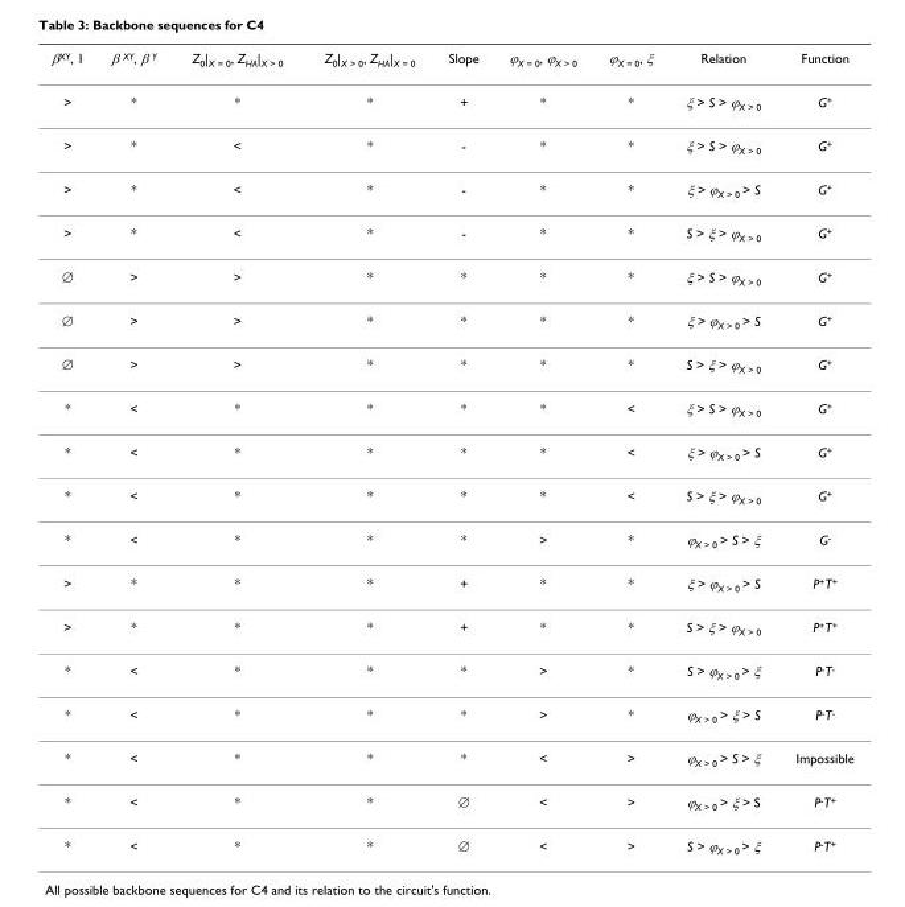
<table><thead><tr><td>β<sup>XY</sup>, 1</td><td>β <sup>XY</sup>, β <sup>Y</sup></td><td>Z<sub>0</sub>|<sub>X = 0</sub>, Z<sub>HA</sub>|<sub>X &gt; 0</sub></td><td>Z<sub>0</sub>|<sub>X &gt; 0</sub>, Z<sub>HA</sub>|<sub>X = 0</sub></td><td>Slope</td><td>ϕ<sub>X = 0</sub>, ϕ<sub>X &gt; 0</sub></td><td>ϕ<sub>X = 0</sub>, ξ</td><td>Relation</td><td>Function</td></tr></thead><tbody><tr><td>&gt;</td><td>*</td><td>*</td><td>*</td><td>+</td><td>*</td><td>*</td><td>ξ &gt; S &gt; ϕ<sub>X &gt; 0</sub></td><td>G<sup>+</sup></td></tr><tr><td>&gt;</td><td>*</td><td>&lt;</td><td>*</td><td>-</td><td>*</td><td>*</td><td>ξ &gt; S &gt; ϕ<sub>X &gt; 0</sub></td><td>G<sup>+</sup></td></tr><tr><td>&gt;</td><td>*</td><td>&lt;</td><td>*</td><td>-</td><td>*</td><td>*</td><td>ξ &gt; ϕ<sub>X &gt; 0</sub> &gt; S</td><td>G<sup>+</sup></td></tr><tr><td>&gt;</td><td>*</td><td>&lt;</td><td>*</td><td>-</td><td>*</td><td>*</td><td>S &gt; ξ &gt; ϕ<sub>X &gt; 0</sub></td><td>G<sup>+</sup></td></tr><tr><td>∅</td><td>&gt;</td><td>&gt;</td><td>*</td><td>*</td><td>*</td><td>*</td><td>ξ &gt; S &gt; ϕ<sub>X &gt; 0</sub></td><td>G<sup>+</sup></td></tr><tr><td>∅</td><td>&gt;</td><td>&gt;</td><td>*</td><td>*</td><td>*</td><td>*</td><td>ξ &gt; ϕ<sub>X &gt; 0</sub> &gt; S</td><td>G<sup>+</sup></td></tr><tr><td>∅</td><td>&gt;</td><td>&gt;</td><td>*</td><td>*</td><td>*</td><td>*</td><td>S &gt; ξ &gt; ϕ<sub>X &gt; 0</sub></td><td>G<sup>+</sup></td></tr><tr><td>*</td><td>&lt;</td><td>*</td><td>*</td><td>*</td><td>*</td><td>&lt;</td><td>ξ &gt; S &gt; ϕ<sub>X &gt; 0</sub></td><td>G<sup>+</sup></td></tr><tr><td>*</td><td>&lt;</td><td>*</td><td>*</td><td>*</td><td>*</td><td>&lt;</td><td>ξ &gt; ϕ<sub>X &gt; 0</sub> &gt; S</td><td>G<sup>+</sup></td></tr><tr><td>*</td><td>&lt;</td><td>*</td><td>*</td><td>*</td><td>*</td><td>&lt;</td><td>S &gt; ξ &gt; ϕ<sub>X &gt; 0</sub></td><td>G<sup>+</sup></td></tr><tr><td>*</td><td>&lt;</td><td>*</td><td>*</td><td>*</td><td>&gt;</td><td>*</td><td>ϕ<sub>X &gt; 0</sub> &gt; S &gt; ξ</td><td>G<sup>-</sup></td></tr><tr><td>&gt;</td><td>*</td><td>*</td><td>*</td><td>+</td><td>*</td><td>*</td><td>ξ &gt; ϕ<sub>X &gt; 0</sub> &gt; S</td><td>P<sup>+</sup>T<sup>+</sup></td></tr><tr><td>&gt;</td><td>*</td><td>*</td><td>*</td><td>+</td><td>*</td><td>*</td><td>S &gt; ξ &gt; ϕ<sub>X &gt; 0</sub></td><td>P<sup>+</sup>T<sup>+</sup></td></tr><tr><td>*</td><td>&lt;</td><td>*</td><td>*</td><td>*</td><td>&gt;</td><td>*</td><td>S &gt; ϕ<sub>X &gt; 0</sub> &gt; ξ</td><td>P<sup>-</sup>T<sup>-</sup></td></tr><tr><td>*</td><td>&lt;</td><td>*</td><td>*</td><td>*</td><td>&gt;</td><td>*</td><td>ϕ<sub>X &gt; 0</sub> &gt; ξ &gt; S</td><td>P<sup>-</sup>T<sup>-</sup></td></tr><tr><td>*</td><td>&lt;</td><td>*</td><td>*</td><td>*</td><td>&lt;</td><td>&gt;</td><td>ϕ<sub>X &gt; 0</sub> &gt; S &gt; ξ</td><td>Impossible</td></tr><tr><td>*</td><td>&lt;</td><td>*</td><td>*</td><td>∅</td><td>&lt;</td><td>&gt;</td><td>ϕ<sub>X &gt; 0</sub> &gt; ξ &gt; S</td><td>P<sup>-</sup>T<sup>+</sup></td></tr><tr><td>*</td><td>&lt;</td><td>*</td><td>*</td><td>∅</td><td>&lt;</td><td>&gt;</td><td>S &gt; ϕ<sub>X &gt; 0</sub> &gt; ξ</td><td>P<sup>-</sup>T<sup>+</sup></td></tr></tbody></table>